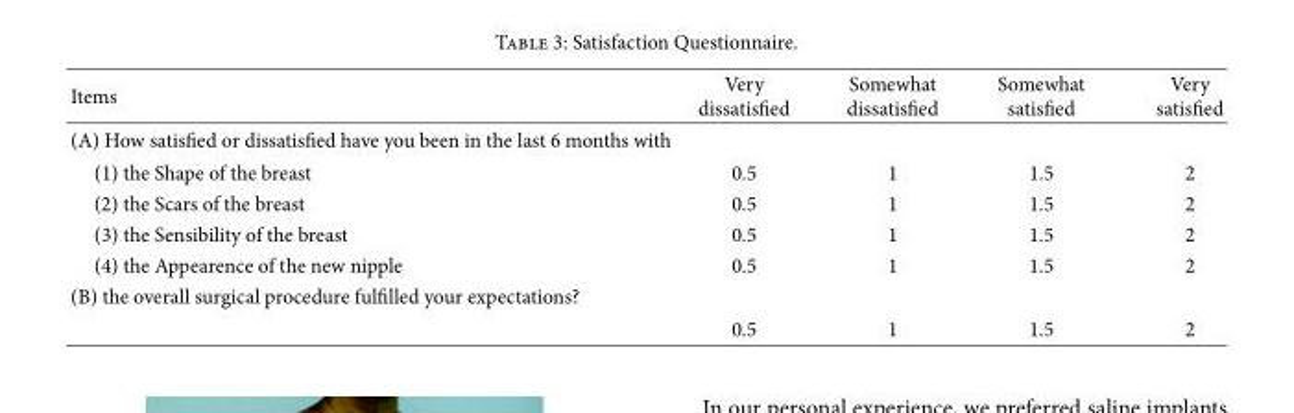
<table><thead><tr><td>Items</td><td>Very dissatis�ed</td><td>Somewhat dissatis�ed</td><td>Somewhat satis�ed</td><td>Very satis�ed</td></tr></thead><tbody><tr><td colspan="5">(A) How satis�ed or dissatis�ed have you been in the last 6 months with</td></tr><tr><td>(1) the Shape of the breast</td><td>0.5</td><td>1</td><td>1.5</td><td>2</td></tr><tr><td>(2) the Scars of the breast</td><td>0.5</td><td>1</td><td>1.5</td><td>2</td></tr><tr><td>(3) the Sensibility of the breast</td><td>0.5</td><td>1</td><td>1.5</td><td>2</td></tr><tr><td>(4) the Appearence of the new nipple</td><td>0.5</td><td>1</td><td>1.5</td><td>2</td></tr><tr><td colspan="5">(B) the overall surgical procedure ful�lled your expectations�</td></tr><tr><td></td><td>0.5</td><td>1</td><td>1.5</td><td>2</td></tr></tbody></table>